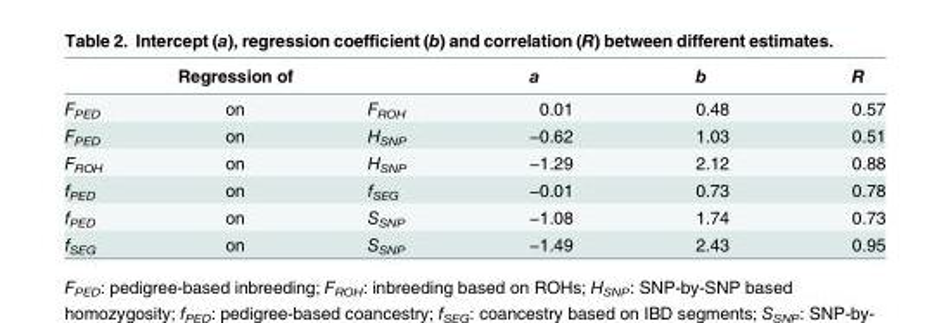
<table><thead><tr><td colspan="3">Regression of</td><td rowspan="2">a 0.01</td><td rowspan="2">b 0.48</td><td rowspan="2">R 0.57</td></tr><tr><td>FPED</td><td>on</td><td>F<sub>ROH</sub></td></tr></thead><tbody><tr><td>FPED</td><td>on</td><td>H<sub>SNP</sub></td><td>−0.62</td><td>1.03</td><td>0.51</td></tr><tr><td>F<sub>ROH</sub></td><td>on</td><td>H<sub>SNP</sub></td><td>−1.29</td><td>2.12</td><td>0.88</td></tr><tr><td>f<sub>PED</sub></td><td>on</td><td>f<sub>SEG</sub></td><td>−0.01</td><td>0.73</td><td>0.78</td></tr><tr><td>f<sub>PED</sub></td><td>on</td><td>S<sub>SNP</sub></td><td>−1.08</td><td>1.74</td><td>0.73</td></tr><tr><td>f<sub>SEG</sub></td><td>on</td><td>S<sub>SNP</sub></td><td>−1.49</td><td>2.43</td><td>0.95</td></tr></tbody></table>